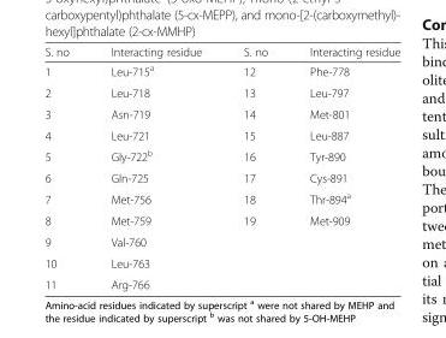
<table><thead><tr><td>S. no</td><td>Interacting residue</td><td>S. no</td><td>Interacting residue</td></tr></thead><tbody><tr><td>1</td><td>Leu-715<sup>a</sup></td><td>12</td><td>Phe-778</td></tr><tr><td>2</td><td>Leu-718</td><td>13</td><td>Leu-797</td></tr><tr><td>3</td><td>Asn-719</td><td>14</td><td>Met-801</td></tr><tr><td>4</td><td>Leu-721</td><td>15</td><td>Leu-887</td></tr><tr><td>5</td><td>Gly-722<sup>b</sup></td><td>16</td><td>Tyr-890</td></tr><tr><td>6</td><td>Gln-725</td><td>17</td><td>Cys-891</td></tr><tr><td>7</td><td>Met-756</td><td>18</td><td>Thr-894<sup>a</sup></td></tr><tr><td>8</td><td>Met-759</td><td>19</td><td>Met-909</td></tr><tr><td>9</td><td>Val-760</td><td></td><td></td></tr><tr><td>10</td><td>Leu-763</td><td></td><td></td></tr><tr><td>11</td><td>Arg-766</td><td></td><td></td></tr></tbody></table>